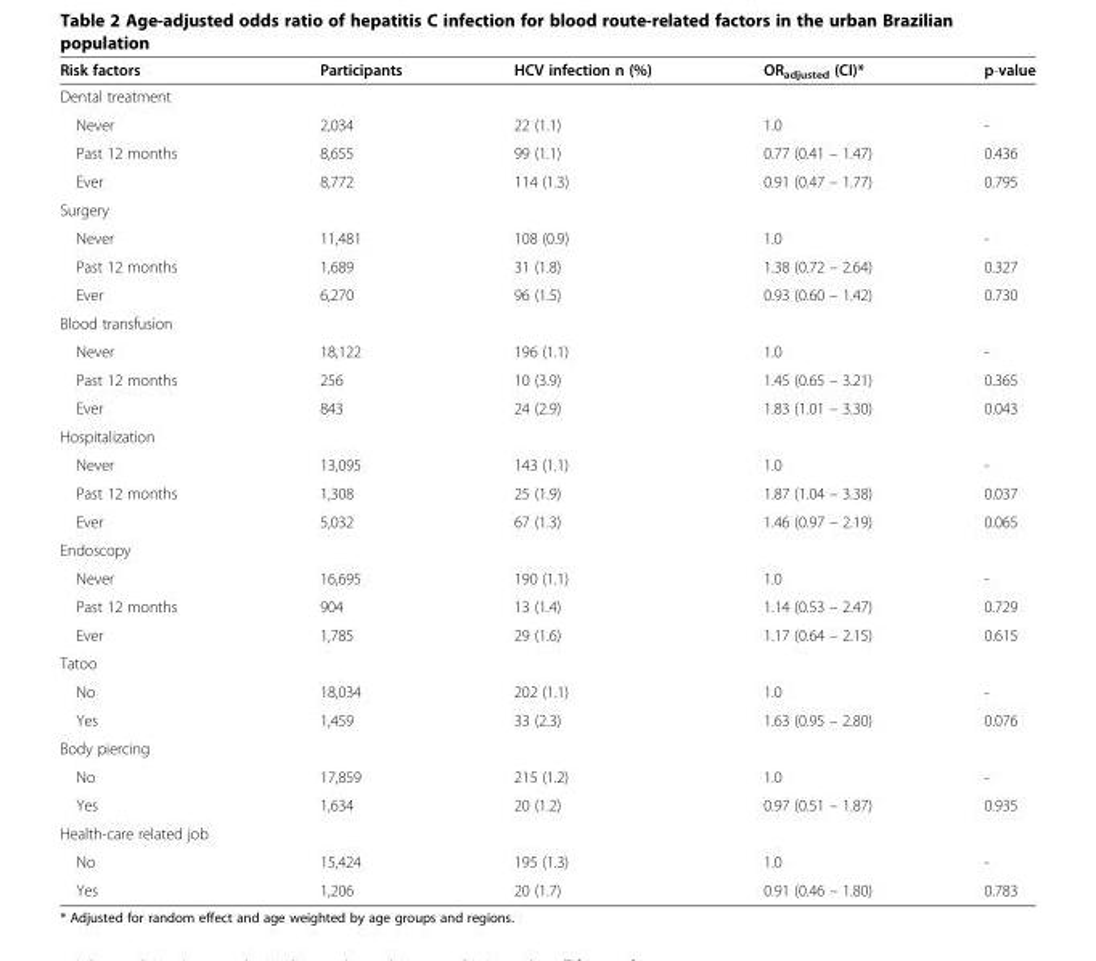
<table><thead><tr><td>Risk factors</td><td>Participants</td><td>HCV infection n (%)</td><td>OR<sub>adjusted</sub> (CI)*</td><td>p-value</td></tr></thead><tbody><tr><td colspan="5">Dental treatment</td></tr><tr><td>Never</td><td>2,034</td><td>22 (1.1)</td><td>1.0</td><td>-</td></tr><tr><td>Past 12 months</td><td>8,655</td><td>99 (1.1)</td><td>0.77 (0.41 – 1.47)</td><td>0.436</td></tr><tr><td>Ever</td><td>8,772</td><td>114 (1.3)</td><td>0.91 (0.47 – 1.77)</td><td>0.795</td></tr><tr><td colspan="5">Surgery</td></tr><tr><td>Never</td><td>11,481</td><td>108 (0.9)</td><td>1.0</td><td>-</td></tr><tr><td>Past 12 months</td><td>1,689</td><td>31 (1.8)</td><td>1.38 (0.72 – 2.64)</td><td>0.327</td></tr><tr><td>Ever</td><td>6,270</td><td>96 (1.5)</td><td>0.93 (0.60 – 1.42)</td><td>0.730</td></tr><tr><td colspan="5">Blood transfusion</td></tr><tr><td>Never</td><td>18,122</td><td>196 (1.1)</td><td>1.0</td><td>-</td></tr><tr><td>Past 12 months</td><td>256</td><td>10 (3.9)</td><td>1.45 (0.65 – 3.21)</td><td>0.365</td></tr><tr><td>Ever</td><td>843</td><td>24 (2.9)</td><td>1.83 (1.01 – 3.30)</td><td>0.043</td></tr><tr><td colspan="5">Hospitalization</td></tr><tr><td>Never</td><td>13,095</td><td>143 (1.1)</td><td>1.0</td><td>-</td></tr><tr><td>Past 12 months</td><td>1,308</td><td>25 (1.9)</td><td>1.87 (1.04 – 3.38)</td><td>0.037</td></tr><tr><td>Ever</td><td>5,032</td><td>67 (1.3)</td><td>1.46 (0.97 – 2.19)</td><td>0.065</td></tr><tr><td colspan="5">Endoscopy</td></tr><tr><td>Never</td><td>16,695</td><td>190 (1.1)</td><td>1.0</td><td>-</td></tr><tr><td>Past 12 months</td><td>904</td><td>13 (1.4)</td><td>1.14 (0.53 – 2.47)</td><td>0.729</td></tr><tr><td>Ever</td><td>1,785</td><td>29 (1.6)</td><td>1.17 (0.64 – 2.15)</td><td>0.615</td></tr><tr><td colspan="5">Tatoo</td></tr><tr><td>No</td><td>18,034</td><td>202 (1.1)</td><td>1.0</td><td>-</td></tr><tr><td>Yes</td><td>1,459</td><td>33 (2.3)</td><td>1.63 (0.95 – 2.80)</td><td>0.076</td></tr><tr><td colspan="5">Body piercing</td></tr><tr><td>No</td><td>17,859</td><td>215 (1.2)</td><td>1.0</td><td>-</td></tr><tr><td>Yes</td><td>1,634</td><td>20 (1.2)</td><td>0.97 (0.51 – 1.87)</td><td>0.935</td></tr><tr><td colspan="5">Health-care related job</td></tr><tr><td>No</td><td>15,424</td><td>195 (1.3)</td><td>1.0</td><td>-</td></tr><tr><td>Yes</td><td>1,206</td><td>20 (1.7)</td><td>0.91 (0.46 – 1.80)</td><td>0.783</td></tr></tbody></table>